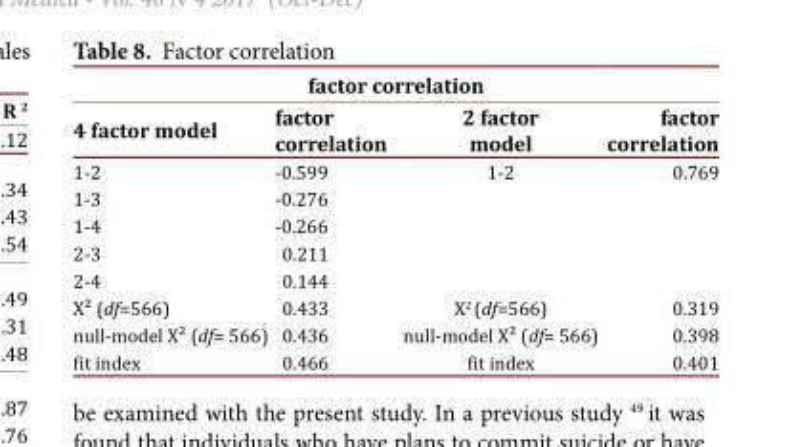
<table><thead><tr><td colspan="4">factor correlation</td></tr><tr><td>4 factor model</td><td>factor correlation</td><td>2 factor model</td><td>factor correlation</td></tr></thead><tbody><tr><td>1-2</td><td>-0.599</td><td>1-2</td><td>0.769</td></tr><tr><td>1-3</td><td>-0.276</td><td></td><td></td></tr><tr><td>1-4</td><td>-0.266</td><td></td><td></td></tr><tr><td>2-3</td><td>0.211</td><td></td><td></td></tr><tr><td>2-4</td><td>0.144</td><td></td><td></td></tr><tr><td>X² (df=566)</td><td>0.433</td><td>X<sup>2</sup> (df=566)</td><td>0.319</td></tr><tr><td>null-model X² (df= 566)</td><td>0.436</td><td>null-model X² (df= 566)</td><td>0.398</td></tr><tr><td>fit index</td><td>0.466</td><td>fit index</td><td>0.401</td></tr></tbody></table>